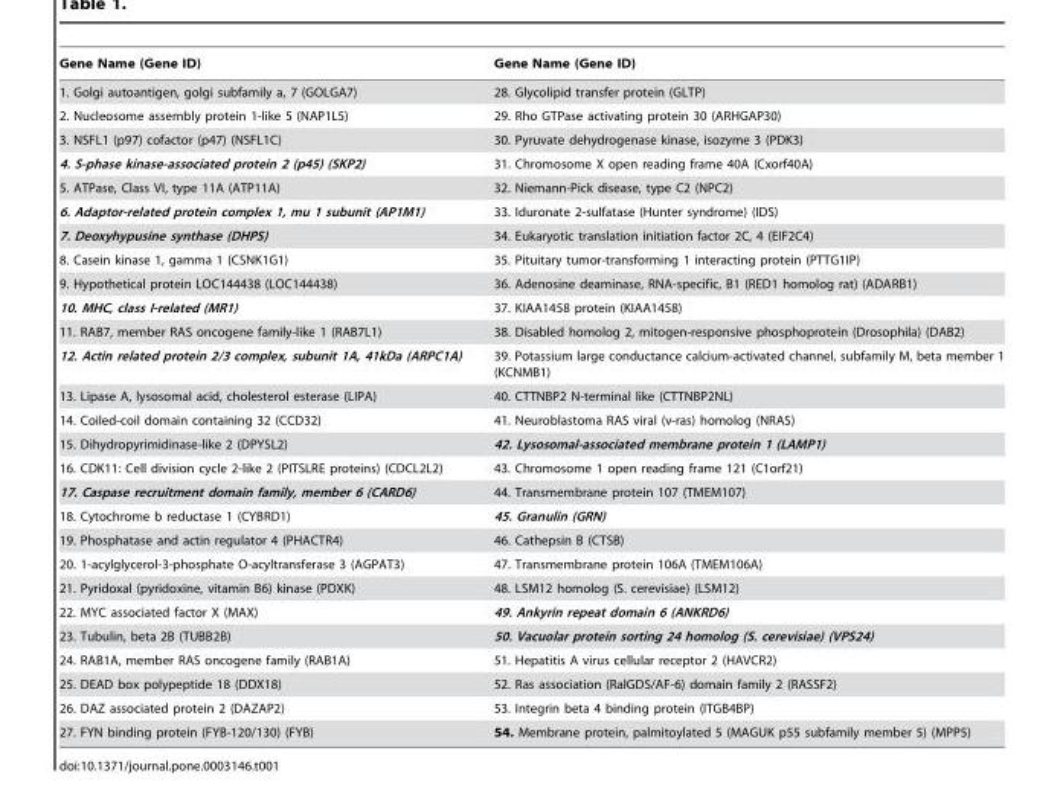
<table><thead><tr><td>Gene Name (Gene ID)</td><td>Gene Name (Gene ID)</td></tr></thead><tbody><tr><td>1. Golgi autoantigen, golgi subfamily a, 7 (GOLGA7)</td><td>28. Glycolipid transfer protein (GLTP)</td></tr><tr><td>2. Nucleosome assembly protein 1-like 5 (NAP1L5)</td><td>29. Rho GTPase activating protein 30 (ARHGAP30)</td></tr><tr><td>3. NSFL1 (p97) cofactor (p47) (NSFL1C)</td><td>30. Pyruvate dehydrogenase kinase, isozyme 3 (PDK3)</td></tr><tr><td>4. S-phase kinase-associated protein 2 (p45) (SKP2)</td><td>31. Chromosome X open reading frame 40A (Cxorf40A)</td></tr><tr><td>5. ATPase, Class VI, type 11A (ATP11A)</td><td>32. Niemann-Pick disease, type C2 (NPC2)</td></tr><tr><td>6. Adaptor-related protein complex 1, mu 1 subunit (AP1M1)</td><td>33. Iduronate 2-sulfatase (Hunter syndrome) (IDS)</td></tr><tr><td>7. Deoxyhypusine synthase (DHPS)</td><td>34. Eukaryotic translation initiation factor 2C, 4 (EIF2C4)</td></tr><tr><td>8. Casein kinase 1, gamma 1 (CSNK1G1)</td><td>35. Pituitary tumor-transforming 1 interacting protein (PTTG1IP)</td></tr><tr><td>9. Hypothetical protein LOC144438 (LOC144438)</td><td>36. Adenosine deaminase, RNA-specific, B1 (RED1 homolog rat) (ADARB1)</td></tr><tr><td>10. MHC, class I-related (MR1)</td><td>37. KIAA1458 protein (KIAA1458)</td></tr><tr><td>11. RAB7, member RAS oncogene family-like 1 (RAB7L1)</td><td>38. Disabled homolog 2, mitogen-responsive phosphoprotein (Drosophila) (DAB2)</td></tr><tr><td>12. Actin related protein 2/3 complex, subunit 1A, 41kDa (ARPC1A)</td><td>39. Potassium large conductance calcium-activated channel, subfamily M, beta member 1 (KCNMB1)</td></tr><tr><td>13. Lipase A, lysosomal acid, cholesterol esterase (LIPA)</td><td>40. CTTNBP2 N-terminal like (CTTNBP2NL)</td></tr><tr><td>14. Coiled-coil domain containing 32 (CCD32)</td><td>41. Neuroblastoma RAS viral (v-ras) homolog (NRAS)</td></tr><tr><td>15. Dihydropyrimidinase-like 2 (DPYSL2)</td><td>42. Lysosomal-associated membrane protein 1 (LAMP1)</td></tr><tr><td>16. CDK11: Cell division cycle 2-like 2 (PITSLRE proteins) (CDCL2L2)</td><td>43. Chromosome 1 open reading frame 121 (C1orf21)</td></tr><tr><td>17. Caspase recruitment domain family, member 6 (CARD6)</td><td>44. Transmembrane protein 107 (TMEM107)</td></tr><tr><td>18. Cytochrome b reductase 1 (CYBRD1)</td><td>45. Granulin (GRN)</td></tr><tr><td>19. Phosphatase and actin regulator 4 (PHACTR4)</td><td>46. Cathepsin B (CTSB)</td></tr><tr><td>20. 1-acylglycerol-3-phosphate O-acyltransferase 3 (AGPAT3)</td><td>47. Transmembrane protein 106A (TMEM106A)</td></tr><tr><td>21. Pyridoxal (pyridoxine, vitamin B6) kinase (PDXK)</td><td>48. LSM12 homolog (S. cerevisiae) (LSM12)</td></tr><tr><td>22. MYC associated factor X (MAX)</td><td>49. Ankyrin repeat domain 6 (ANKRD6)</td></tr><tr><td>23. Tubulin, beta 2B (TUBB2B)</td><td>50. Vacuolar protein sorting 24 homolog (S. cerevisiae) (VPS24)</td></tr><tr><td>24. RAB1A, member RAS oncogene family (RAB1A)</td><td>51. Hepatitis A virus cellular receptor 2 (HAVCR2)</td></tr><tr><td>25. DEAD box polypeptide 18 (DDX18)</td><td>52. Ras association (RalGDS/AF-6) domain family 2 (RASSF2)</td></tr><tr><td>26. DAZ associated protein 2 (DAZAP2)</td><td>53. Integrin beta 4 binding protein (ITGB4BP)</td></tr><tr><td>27. FYN binding protein (FYB-120/130) (FYB)</td><td>54. Membrane protein, palmitoylated 5 (MAGUK p55 subfamily member 5) (MPP5)</td></tr></tbody></table>